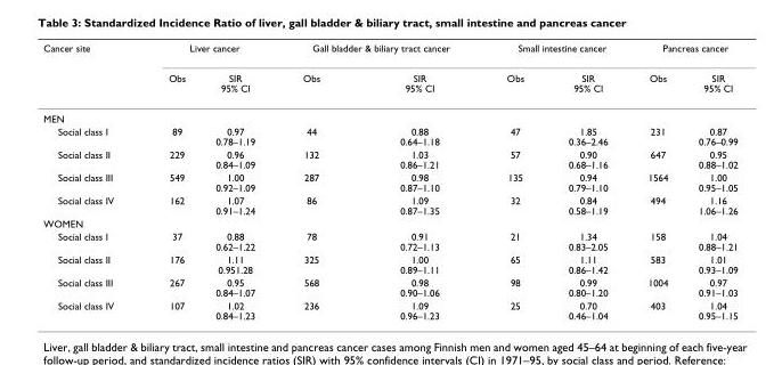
<table><thead><tr><td rowspan="2">Cancer site</td><td colspan="2">Liver cancer</td><td colspan="2">Gall bladder &amp; biliary tract cancer</td><td colspan="2">Small intestine cancer</td><td colspan="2">Pancreas cancer</td></tr><tr><td>Obs</td><td>SIR 95% CI</td><td>Obs</td><td>SIR 95% CI</td><td>Obs</td><td>SIR 95% CI</td><td>Obs</td><td>SIR 95% CI</td></tr></thead><tbody><tr><td colspan="9">MEN</td></tr><tr><td>Social class I</td><td>89</td><td>0.97 0.78–1.19</td><td>44</td><td>0.88 0.64–1.18</td><td>47</td><td>1.85 0.36–2.46</td><td>231</td><td>0.87 0.76–0.99</td></tr><tr><td>Social class II</td><td>229</td><td>0.96 0.84–1.09</td><td>132</td><td>1.03 0.86–1.21</td><td>57</td><td>0.90 0.68–1.16</td><td>647</td><td>0.95 0.88–1.02</td></tr><tr><td>Social class III</td><td>549</td><td>1.00 0.92–1.09</td><td>287</td><td>0.98 0.87–1.10</td><td>135</td><td>0.94 0.79–1.10</td><td>1564</td><td>1.00 0.95–1.05</td></tr><tr><td>Social class IV</td><td>162</td><td>1.07 0.91–1.24</td><td>86</td><td>1.09 0.87–1.35</td><td>32</td><td>0.84 0.58–1.19</td><td>494</td><td>1.16 1.06–1.26</td></tr><tr><td colspan="9">WOMEN</td></tr><tr><td>Social class I</td><td>37</td><td>0.88 0.62–1.22</td><td>78</td><td>0.91 0.72–1.13</td><td>21</td><td>1.34 0.83–2.05</td><td>158</td><td>1.04 0.88–1.21</td></tr><tr><td>Social class II</td><td>176</td><td>1.11 0.951.28</td><td>325</td><td>1.00 0.89–1.11</td><td>65</td><td>1.11 0.86–1.42</td><td>583</td><td>1.01 0.93–1.09</td></tr><tr><td>Social class III</td><td>267</td><td>0.95 0.84–1.07</td><td>568</td><td>0.98 0.90–1.06</td><td>98</td><td>0.99 0.80–1.20</td><td>1004</td><td>0.97 0.91–1.03</td></tr><tr><td>Social class IV</td><td>107</td><td>1.02 0.84–1.23</td><td>236</td><td>1.09 0.96–1.23</td><td>25</td><td>0.70 0.46–1.04</td><td>403</td><td>1.04 0.95–1.15</td></tr></tbody></table>